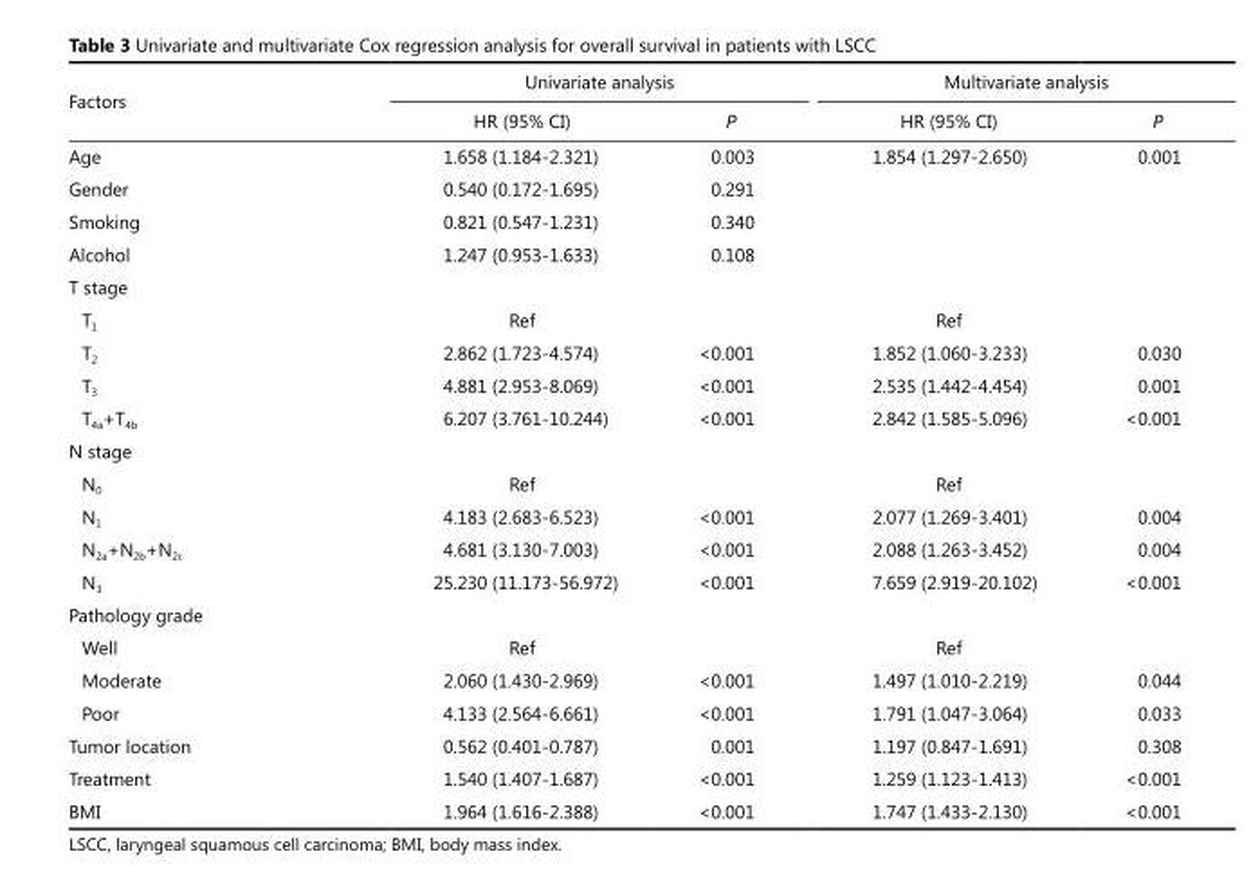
<table><thead><tr><td rowspan="2">Factors</td><td colspan="2">Univariate analysis</td><td colspan="2">Multivariate analysis</td></tr><tr><td>HR (95% CI)</td><td>P</td><td>HR (95% CI)</td><td>P</td></tr></thead><tbody><tr><td>Age</td><td>1.658 (1.184-2.321)</td><td>0.003</td><td>1.854 (1.297-2.650)</td><td>0.001</td></tr><tr><td>Gender</td><td>0.540 (0.172-1.695)</td><td>0.291</td><td></td><td></td></tr><tr><td>Smoking</td><td>0.821 (0.547-1.231)</td><td>0.340</td><td></td><td></td></tr><tr><td>Alcohol</td><td>1.247 (0.953-1.633)</td><td>0.108</td><td></td><td></td></tr><tr><td colspan="5">T stage</td></tr><tr><td>T<sub>1</sub></td><td>Ref</td><td></td><td>Ref</td><td></td></tr><tr><td>T<sub>2</sub></td><td>2.862 (1.723-4.574)</td><td>&lt;0.001</td><td>1.852 (1.060-3.233)</td><td>0.030</td></tr><tr><td>T<sub>3</sub></td><td>4.881 (2.953-8.069)</td><td>&lt;0.001</td><td>2.535 (1.442-4.454)</td><td>0.001</td></tr><tr><td>T<sub>4a</sub>+T<sub>4b</sub></td><td>6.207 (3.761-10.244)</td><td>&lt;0.001</td><td>2.842 (1.585-5.096)</td><td>&lt;0.001</td></tr><tr><td colspan="5">N stage</td></tr><tr><td>N<sub>0</sub></td><td>Ref</td><td></td><td>Ref</td><td></td></tr><tr><td>N<sub>1</sub></td><td>4.183 (2.683-6.523)</td><td>&lt;0.001</td><td>2.077 (1.269-3.401)</td><td>0.004</td></tr><tr><td>N<sub>2a</sub>+N<sub>2b</sub>+N<sub>2c</sub></td><td>4.681 (3.130-7.003)</td><td>&lt;0.001</td><td>2.088 (1.263-3.452)</td><td>0.004</td></tr><tr><td>N<sub>3</sub></td><td>25.230 (11.173-56.972)</td><td>&lt;0.001</td><td>7.659 (2.919-20.102)</td><td>&lt;0.001</td></tr><tr><td colspan="5">Pathology grade</td></tr><tr><td>Well</td><td>Ref</td><td></td><td>Ref</td><td></td></tr><tr><td>Moderate</td><td>2.060 (1.430-2.969)</td><td>&lt;0.001</td><td>1.497 (1.010-2.219)</td><td>0.044</td></tr><tr><td>Poor</td><td>4.133 (2.564-6.661)</td><td>&lt;0.001</td><td>1.791 (1.047-3.064)</td><td>0.033</td></tr><tr><td>Tumor location</td><td>0.562 (0.401-0.787)</td><td>0.001</td><td>1.197 (0.847-1.691)</td><td>0.308</td></tr><tr><td>Treatment</td><td>1.540 (1.407-1.687)</td><td>&lt;0.001</td><td>1.259 (1.123-1.413)</td><td>&lt;0.001</td></tr><tr><td>BMI</td><td>1.964 (1.616-2.388)</td><td>&lt;0.001</td><td>1.747 (1.433-2.130)</td><td>&lt;0.001</td></tr></tbody></table>